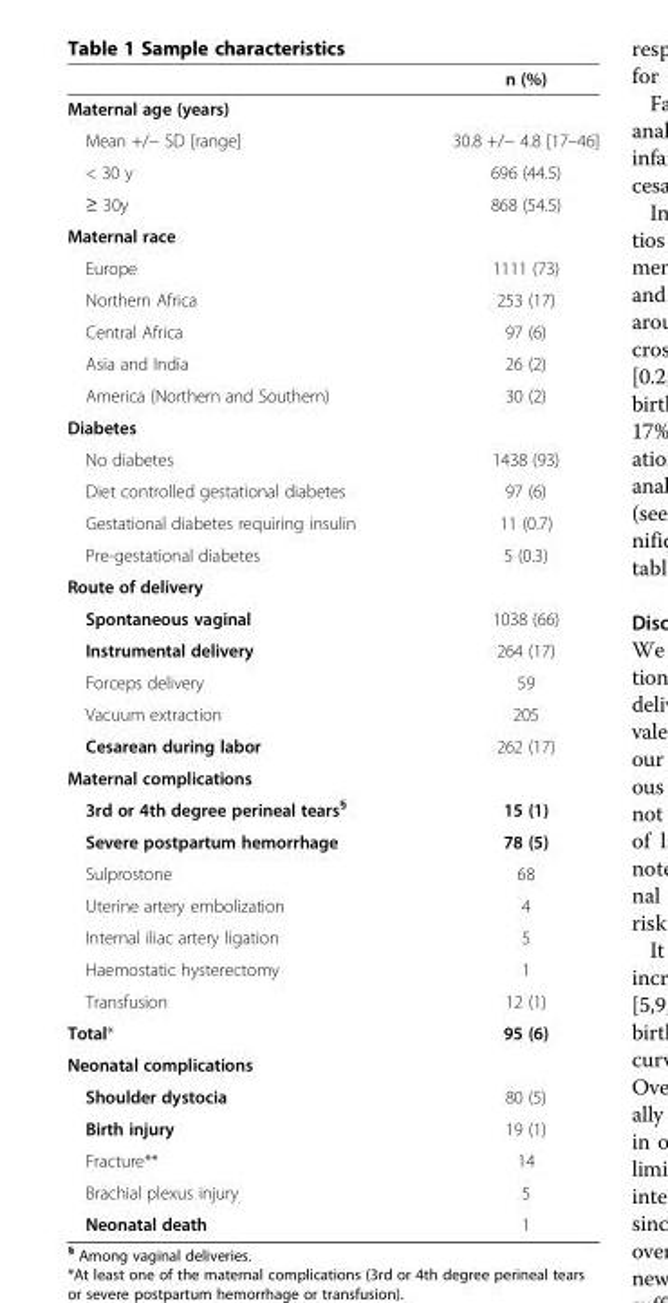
<table><thead><tr><td></td><td>n (%)</td></tr></thead><tbody><tr><td colspan="2">Maternal age (years)</td></tr><tr><td>Mean +/− SD [range]</td><td>30.8 +/− 4.8 [17–46]</td></tr><tr><td>&lt; 30 y</td><td>696 (44.5)</td></tr><tr><td>≥ 30y</td><td>868 (54.5)</td></tr><tr><td colspan="2">Maternal race</td></tr><tr><td>Europe</td><td>1111 (73)</td></tr><tr><td>Northern Africa</td><td>253 (17)</td></tr><tr><td>Central Africa</td><td>97 (6)</td></tr><tr><td>Asia and India</td><td>26 (2)</td></tr><tr><td>America (Northern and Southern)</td><td>30 (2)</td></tr><tr><td colspan="2">Diabetes</td></tr><tr><td>No diabetes</td><td>1438 (93)</td></tr><tr><td>Diet controlled gestational diabetes</td><td>97 (6)</td></tr><tr><td>Gestational diabetes requiring insulin</td><td>11 (0.7)</td></tr><tr><td>Pre-gestational diabetes</td><td>5 (0.3)</td></tr><tr><td colspan="2">Route of delivery</td></tr><tr><td>Spontaneous vaginal</td><td>1038 (66)</td></tr><tr><td>Instrumental delivery</td><td>264 (17)</td></tr><tr><td>Forceps delivery</td><td>59</td></tr><tr><td>Vacuum extraction</td><td>205</td></tr><tr><td>Cesarean during labor</td><td>262 (17)</td></tr><tr><td colspan="2">Maternal complications</td></tr><tr><td>3rd or 4th degree perineal tears<sup>§</sup></td><td>15 (1)</td></tr><tr><td>Severe postpartum hemorrhage</td><td>78 (5)</td></tr><tr><td>Sulprostone</td><td>68</td></tr><tr><td>Uterine artery embolization</td><td>4</td></tr><tr><td>Internal iliac artery ligation</td><td>5</td></tr><tr><td>Haemostatic hysterectomy</td><td>1</td></tr><tr><td>Transfusion</td><td>12 (1)</td></tr><tr><td>Total*</td><td>95 (6)</td></tr><tr><td colspan="2">Neonatal complications</td></tr><tr><td>Shoulder dystocia</td><td>80 (5)</td></tr><tr><td>Birth injury</td><td>19 (1)</td></tr><tr><td>Fracture**</td><td>14</td></tr><tr><td>Brachial plexus injury</td><td>5</td></tr><tr><td>Neonatal death</td><td>1</td></tr></tbody></table>